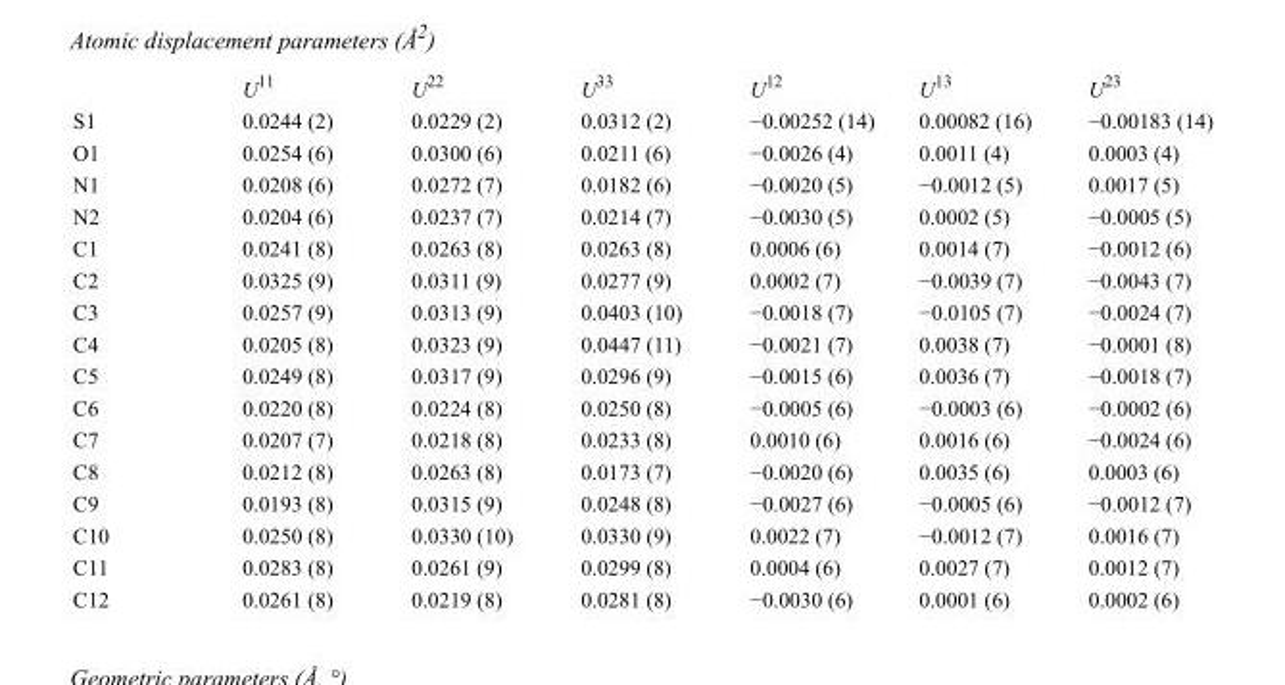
<table><thead><tr><td></td><td>U<sup>11</sup></td><td>U<sup>22</sup></td><td>U<sup>33</sup></td><td>U<sup>12</sup></td><td>U<sup>13</sup></td><td>U<sup>23</sup></td></tr></thead><tbody><tr><td>S1</td><td>0.0244 (2)</td><td>0.0229 (2)</td><td>0.0312 (2)</td><td>−0.00252 (14)</td><td>0.00082 (16)</td><td>−0.00183 (14)</td></tr><tr><td>O1</td><td>0.0254 (6)</td><td>0.0300 (6)</td><td>0.0211 (6)</td><td>−0.0026 (4)</td><td>0.0011 (4)</td><td>0.0003 (4)</td></tr><tr><td>N1</td><td>0.0208 (6)</td><td>0.0272 (7)</td><td>0.0182 (6)</td><td>−0.0020 (5)</td><td>−0.0012 (5)</td><td>0.0017 (5)</td></tr><tr><td>N2</td><td>0.0204 (6)</td><td>0.0237 (7)</td><td>0.0214 (7)</td><td>−0.0030 (5)</td><td>0.0002 (5)</td><td>−0.0005 (5)</td></tr><tr><td>C1</td><td>0.0241 (8)</td><td>0.0263 (8)</td><td>0.0263 (8)</td><td>0.0006 (6)</td><td>0.0014 (7)</td><td>−0.0012 (6)</td></tr><tr><td>C2</td><td>0.0325 (9)</td><td>0.0311 (9)</td><td>0.0277 (9)</td><td>0.0002 (7)</td><td>−0.0039 (7)</td><td>−0.0043 (7)</td></tr><tr><td>C3</td><td>0.0257 (9)</td><td>0.0313 (9)</td><td>0.0403 (10)</td><td>−0.0018 (7)</td><td>−0.0105 (7)</td><td>−0.0024 (7)</td></tr><tr><td>C4</td><td>0.0205 (8)</td><td>0.0323 (9)</td><td>0.0447 (11)</td><td>−0.0021 (7)</td><td>0.0038 (7)</td><td>−0.0001 (8)</td></tr><tr><td>C5</td><td>0.0249 (8)</td><td>0.0317 (9)</td><td>0.0296 (9)</td><td>−0.0015 (6)</td><td>0.0036 (7)</td><td>−0.0018 (7)</td></tr><tr><td>C6</td><td>0.0220 (8)</td><td>0.0224 (8)</td><td>0.0250 (8)</td><td>−0.0005 (6)</td><td>−0.0003 (6)</td><td>−0.0002 (6)</td></tr><tr><td>C7</td><td>0.0207 (7)</td><td>0.0218 (8)</td><td>0.0233 (8)</td><td>0.0010 (6)</td><td>0.0016 (6)</td><td>−0.0024 (6)</td></tr><tr><td>C8</td><td>0.0212 (8)</td><td>0.0263 (8)</td><td>0.0173 (7)</td><td>−0.0020 (6)</td><td>0.0035 (6)</td><td>0.0003 (6)</td></tr><tr><td>C9</td><td>0.0193 (8)</td><td>0.0315 (9)</td><td>0.0248 (8)</td><td>−0.0027 (6)</td><td>−0.0005 (6)</td><td>−0.0012 (7)</td></tr><tr><td>C10</td><td>0.0250 (8)</td><td>0.0330 (10)</td><td>0.0330 (9)</td><td>0.0022 (7)</td><td>−0.0012 (7)</td><td>0.0016 (7)</td></tr><tr><td>C11</td><td>0.0283 (8)</td><td>0.0261 (9)</td><td>0.0299 (8)</td><td>0.0004 (6)</td><td>0.0027 (7)</td><td>0.0012 (7)</td></tr><tr><td>C12</td><td>0.0261 (8)</td><td>0.0219 (8)</td><td>0.0281 (8)</td><td>−0.0030 (6)</td><td>0.0001 (6)</td><td>0.0002 (6)</td></tr></tbody></table>